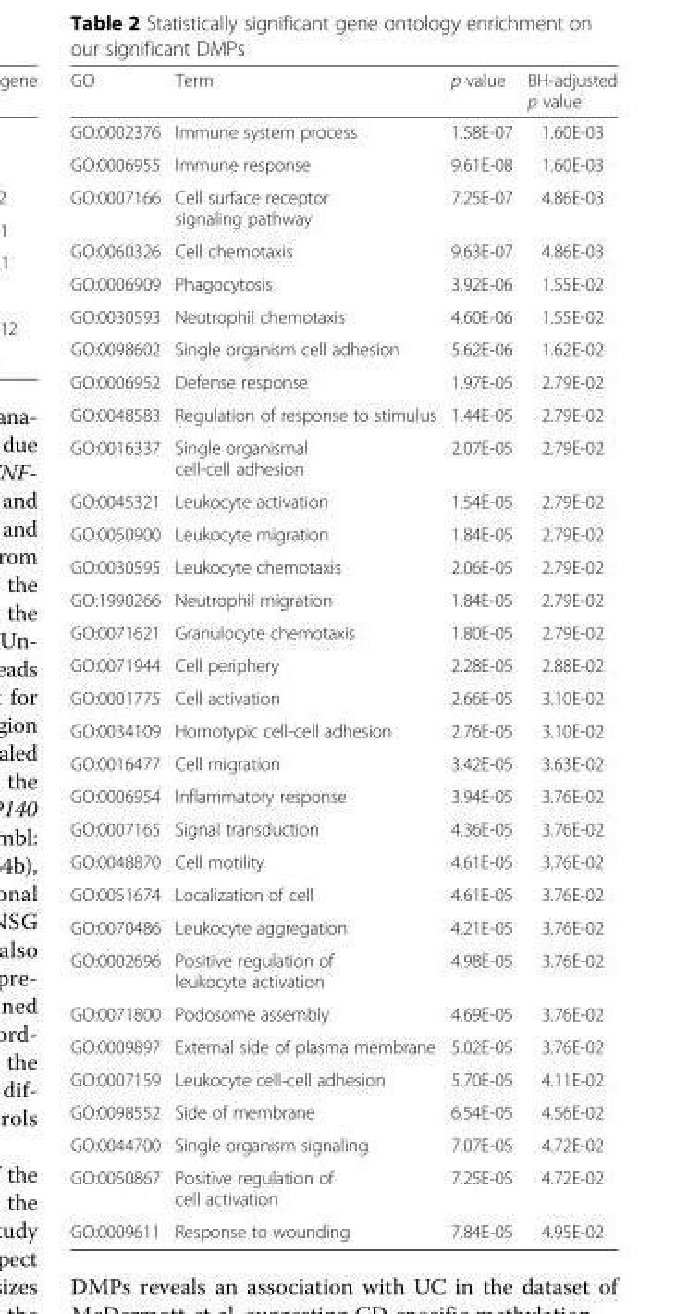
<table><thead><tr><td>GO</td><td>Term</td><td>p value</td><td>BH-adjusted p value</td></tr></thead><tbody><tr><td>GO:0002376</td><td>Immune system process</td><td>1.58E-07</td><td>1.60E-03</td></tr><tr><td>GO:0006955</td><td>Immune response</td><td>9.61E-08</td><td>1.60E-03</td></tr><tr><td>GO:0007166</td><td>Cell surface receptor signaling pathway</td><td>7.25E-07</td><td>4.86E-03</td></tr><tr><td>GO:0060326</td><td>Cell chemotaxis</td><td>9.63E-07</td><td>4.86E-03</td></tr><tr><td>GO:0006909</td><td>Phagocytosis</td><td>3.92E-06</td><td>1.55E-02</td></tr><tr><td>GO:0030593</td><td>Neutrophil chemotaxis</td><td>4.60E-06</td><td>1.55E-02</td></tr><tr><td>GO:0098602</td><td>Single organism cell adhesion</td><td>5.62E-06</td><td>1.62E-02</td></tr><tr><td>GO:0006952</td><td>Defense response</td><td>1.97E-05</td><td>2.79E-02</td></tr><tr><td>GO:0048583</td><td>Regulation of response to stimulus</td><td>1.44E-05</td><td>2.79E-02</td></tr><tr><td>GO:0016337</td><td>Single organismal cell-cell adhesion</td><td>2.07E-05</td><td>2.79E-02</td></tr><tr><td>GO:0045321</td><td>Leukocyte activation</td><td>1.54E-05</td><td>2.79E-02</td></tr><tr><td>GO:0050900</td><td>Leukocyte migration</td><td>1.84E-05</td><td>2.79E-02</td></tr><tr><td>GO:0030595</td><td>Leukocyte chemotaxis</td><td>2.06E-05</td><td>2.79E-02</td></tr><tr><td>GO:1990266</td><td>Neutrophil migration</td><td>1.84E-05</td><td>2.79E-02</td></tr><tr><td>GO:0071621</td><td>Granulocyte chemotaxis</td><td>1.80E-05</td><td>2.79E-02</td></tr><tr><td>GO:0071944</td><td>Cell periphery</td><td>2.28E-05</td><td>2.88E-02</td></tr><tr><td>GO:0001775</td><td>Cell activation</td><td>2.66E-05</td><td>3.10E-02</td></tr><tr><td>GO:0034109</td><td>Homotypic cell-cell adhesion</td><td>2.76E-05</td><td>3.10E-02</td></tr><tr><td>GO:0016477</td><td>Cell migration</td><td>3.42E-05</td><td>3.63E-02</td></tr><tr><td>GO:0006954</td><td>Inflammatory response</td><td>3.94E-05</td><td>3.76E-02</td></tr><tr><td>GO:0007165</td><td>Signal transduction</td><td>4.36E-05</td><td>3.76E-02</td></tr><tr><td>GO:0048870</td><td>Cell motility</td><td>4.61E-05</td><td>3.76E-02</td></tr><tr><td>GO:0051674</td><td>Localization of cell</td><td>4.61E-05</td><td>3.76E-02</td></tr><tr><td>GO:0070486</td><td>Leukocyte aggregation</td><td>4.21E-05</td><td>3.76E-02</td></tr><tr><td>GO:0002696</td><td>Positive regulation of leukocyte activation</td><td>4.98E-05</td><td>3.76E-02</td></tr><tr><td>GO:0071800</td><td>Podosome assembly</td><td>4.69E-05</td><td>3.76E-02</td></tr><tr><td>GO:0009897</td><td>External side of plasma membrane</td><td>5.02E-05</td><td>3.76E-02</td></tr><tr><td>GO:0007159</td><td>Leukocyte cell-cell adhesion</td><td>5.70E-05</td><td>4.11E-02</td></tr><tr><td>GO:0098552</td><td>Side of membrane</td><td>6.54E-05</td><td>4.56E-02</td></tr><tr><td>GO:0044700</td><td>Single organism signaling</td><td>7.07E-05</td><td>4.72E-02</td></tr><tr><td>GO:0050867</td><td>Positive regulation of cell activation</td><td>7.25E-05</td><td>4.72E-02</td></tr><tr><td>GO:0009611</td><td>Response to wounding</td><td>7.84E-05</td><td>4.95E-02</td></tr></tbody></table>